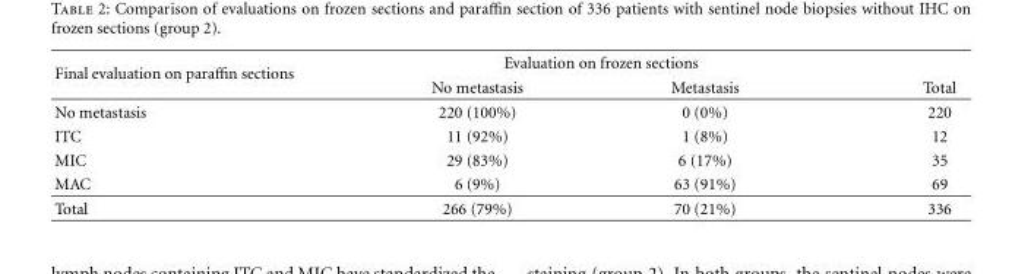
<table><thead><tr><td rowspan="2">Final evaluation on paraffin sections</td><td colspan="2">Evaluation on frozen sections</td><td rowspan="2">Total</td></tr><tr><td>No metastasis</td><td>Metastasis</td></tr></thead><tbody><tr><td>No metastasis</td><td>220 (100%)</td><td>0 (0%)</td><td>220</td></tr><tr><td>ITC</td><td>11 (92%)</td><td>1 (8%)</td><td>12</td></tr><tr><td>MIC</td><td>29 (83%)</td><td>6 (17%)</td><td>35</td></tr><tr><td>MAC</td><td>6 (9%)</td><td>63 (91%)</td><td>69</td></tr><tr><td>Total</td><td>266 (79%)</td><td>70 (21%)</td><td>336</td></tr></tbody></table>